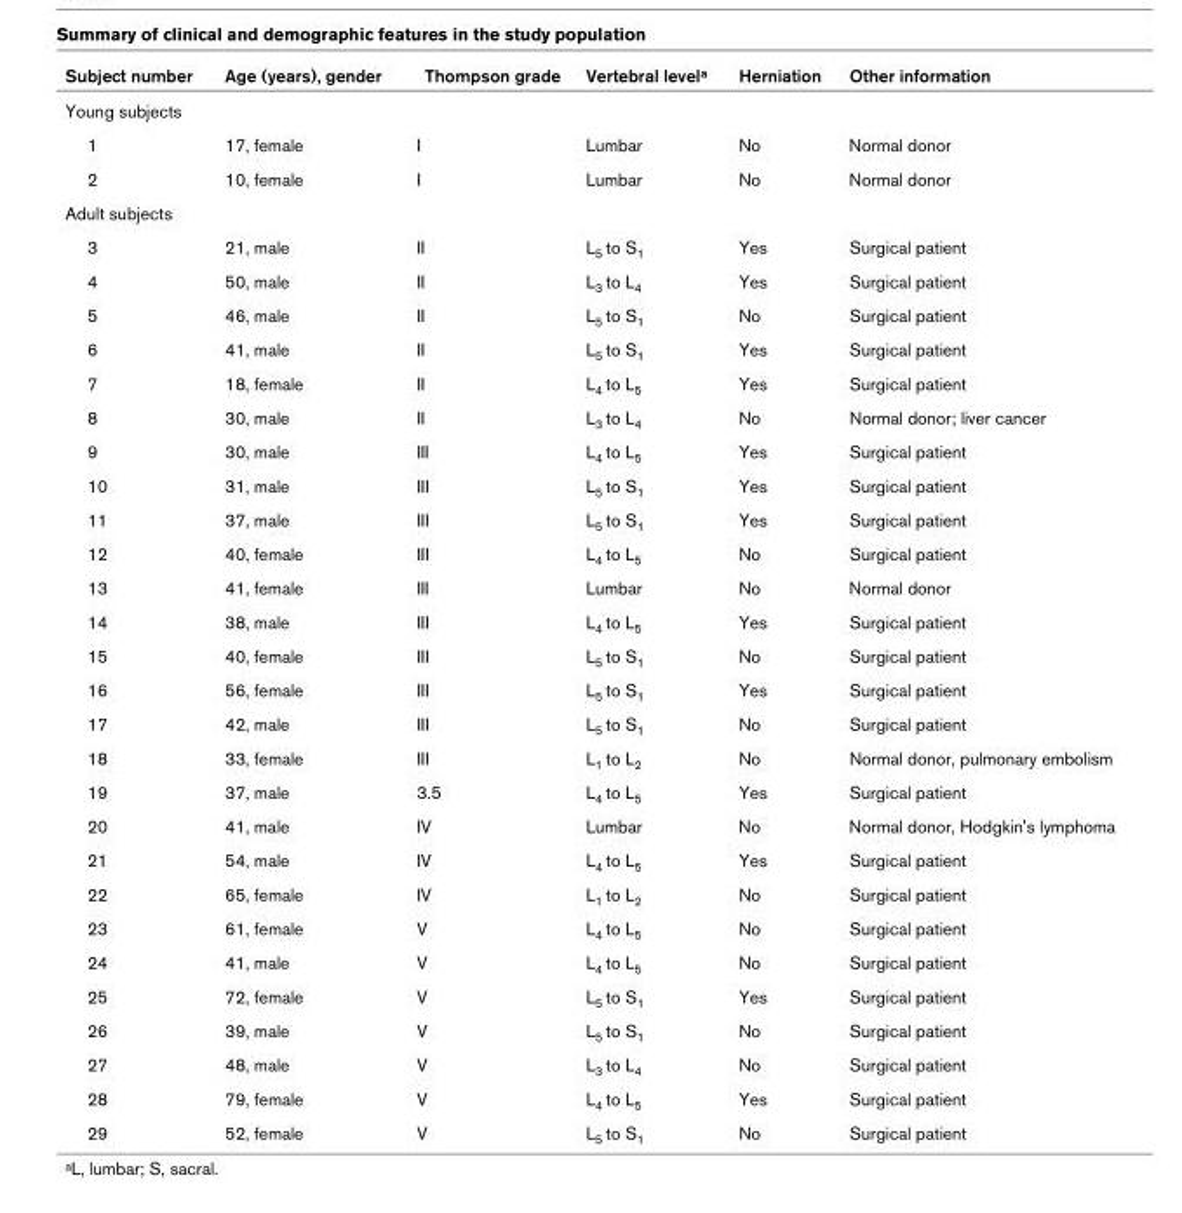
<table><thead><tr><td>Subject number</td><td>Age (years), gender</td><td>Thompson grade</td><td>Vertebral level<sup>a</sup></td><td>Herniation</td><td>Other information</td></tr></thead><tbody><tr><td colspan="6">Young subjects</td></tr><tr><td>1</td><td>17, female</td><td>I</td><td>Lumbar</td><td>No</td><td>Normal donor</td></tr><tr><td>2</td><td>10, female</td><td>I</td><td>Lumbar</td><td>No</td><td>Normal donor</td></tr><tr><td colspan="6">Adult subjects</td></tr><tr><td>3</td><td>21, male</td><td>II</td><td>L<sub>5</sub> to S<sub>1</sub></td><td>Yes</td><td>Surgical patient</td></tr><tr><td>4</td><td>50, male</td><td>II</td><td>L<sub>3</sub> to L<sub>4</sub></td><td>Yes</td><td>Surgical patient</td></tr><tr><td>5</td><td>46, male</td><td>II</td><td>L<sub>5</sub> to S<sub>1</sub></td><td>No</td><td>Surgical patient</td></tr><tr><td>6</td><td>41, male</td><td>II</td><td>L<sub>5</sub> to S<sub>1</sub></td><td>Yes</td><td>Surgical patient</td></tr><tr><td>7</td><td>18, female</td><td>II</td><td>L<sub>4</sub> to L<sub>5</sub></td><td>Yes</td><td>Surgical patient</td></tr><tr><td>8</td><td>30, male</td><td>II</td><td>L<sub>3</sub> to L<sub>4</sub></td><td>No</td><td>Normal donor; liver cancer</td></tr><tr><td>9</td><td>30, male</td><td>III</td><td>L<sub>4</sub> to L<sub>5</sub></td><td>Yes</td><td>Surgical patient</td></tr><tr><td>10</td><td>31, male</td><td>III</td><td>L<sub>5</sub> to S<sub>1</sub></td><td>Yes</td><td>Surgical patient</td></tr><tr><td>11</td><td>37, male</td><td>III</td><td>L<sub>5</sub> to S<sub>1</sub></td><td>Yes</td><td>Surgical patient</td></tr><tr><td>12</td><td>40, female</td><td>III</td><td>L<sub>4</sub> to L<sub>5</sub></td><td>No</td><td>Surgical patient</td></tr><tr><td>13</td><td>41, female</td><td>III</td><td>Lumbar</td><td>No</td><td>Normal donor</td></tr><tr><td>14</td><td>38, male</td><td>III</td><td>L<sub>4</sub> to L<sub>5</sub></td><td>Yes</td><td>Surgical patient</td></tr><tr><td>15</td><td>40, female</td><td>III</td><td>L<sub>5</sub> to S<sub>1</sub></td><td>No</td><td>Surgical patient</td></tr><tr><td>16</td><td>56, female</td><td>III</td><td>L<sub>5</sub> to S<sub>1</sub></td><td>Yes</td><td>Surgical patient</td></tr><tr><td>17</td><td>42, male</td><td>III</td><td>L<sub>5</sub> to S<sub>1</sub></td><td>No</td><td>Surgical patient</td></tr><tr><td>18</td><td>33, female</td><td>III</td><td>L<sub>1</sub> to L<sub>2</sub></td><td>No</td><td>Normal donor, pulmonary embolism</td></tr><tr><td>19</td><td>37, male</td><td>3.5</td><td>L<sub>4</sub> to L<sub>5</sub></td><td>Yes</td><td>Surgical patient</td></tr><tr><td>20</td><td>41, male</td><td>IV</td><td>Lumbar</td><td>No</td><td>Normal donor, Hodgkin&#x27;s lymphoma</td></tr><tr><td>21</td><td>54, male</td><td>IV</td><td>L<sub>4</sub> to L<sub>5</sub></td><td>Yes</td><td>Surgical patient</td></tr><tr><td>22</td><td>65, female</td><td>IV</td><td>L<sub>1</sub> to L<sub>2</sub></td><td>No</td><td>Surgical patient</td></tr><tr><td>23</td><td>61, female</td><td>V</td><td>L<sub>4</sub> to L<sub>5</sub></td><td>No</td><td>Surgical patient</td></tr><tr><td>24</td><td>41, male</td><td>V</td><td>L<sub>4</sub> to L<sub>5</sub></td><td>No</td><td>Surgical patient</td></tr><tr><td>25</td><td>72, female</td><td>V</td><td>L<sub>5</sub> to S<sub>1</sub></td><td>Yes</td><td>Surgical patient</td></tr><tr><td>26</td><td>39, male</td><td>V</td><td>L<sub>5</sub> to S<sub>1</sub></td><td>No</td><td>Surgical patient</td></tr><tr><td>27</td><td>48, male</td><td>V</td><td>L<sub>3</sub> to L<sub>4</sub></td><td>No</td><td>Surgical patient</td></tr><tr><td>28</td><td>79, female</td><td>V</td><td>L<sub>4</sub> to L<sub>5</sub></td><td>Yes</td><td>Surgical patient</td></tr><tr><td>29</td><td>52, female</td><td>V</td><td>L<sub>5</sub> to S<sub>1</sub></td><td>No</td><td>Surgical patient</td></tr></tbody></table>